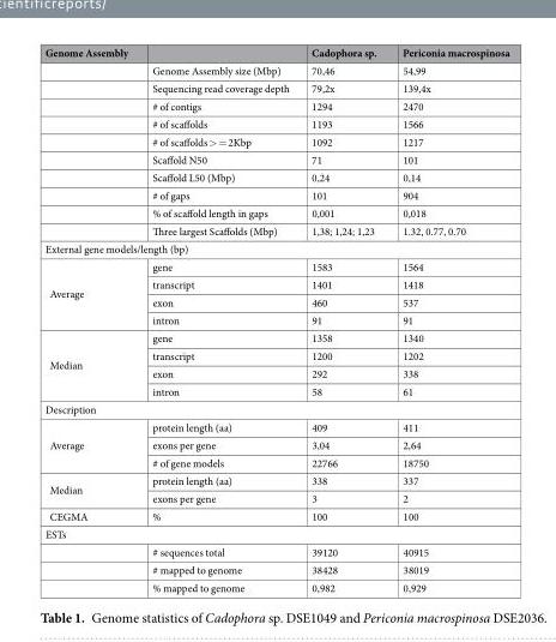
<table><thead><tr><td>Genome Assembly</td><td></td><td>Cadophora sp.</td><td>Periconia macrospinosa</td></tr></thead><tbody><tr><td></td><td>Genome Assembly size (Mbp)</td><td>70,46</td><td>54,99</td></tr><tr><td></td><td>Sequencing read coverage depth</td><td>79,2x</td><td>139,4x</td></tr><tr><td></td><td># of contigs</td><td>1294</td><td>2470</td></tr><tr><td></td><td># of scaffolds</td><td>1193</td><td>1566</td></tr><tr><td></td><td># of scaffolds &gt; = 2Kbp</td><td>1092</td><td>1217</td></tr><tr><td></td><td>Scaffold N50</td><td>71</td><td>101</td></tr><tr><td></td><td>Scaffold L50 (Mbp)</td><td>0,24</td><td>0,14</td></tr><tr><td></td><td># of gaps</td><td>101</td><td>904</td></tr><tr><td></td><td>% of scaffold length in gaps</td><td>0,001</td><td>0,018</td></tr><tr><td></td><td>Three largest Scaffolds (Mbp)</td><td>1,38; 1,24; 1,23</td><td>1.32, 0.77, 0.70</td></tr><tr><td colspan="4">External gene models/length (bp)</td></tr><tr><td rowspan="4">Average</td><td>gene</td><td>1583</td><td>1564</td></tr><tr><td>transcript</td><td>1401</td><td>1418</td></tr><tr><td>exon</td><td>460</td><td>537</td></tr><tr><td>intron</td><td>91</td><td>91</td></tr><tr><td rowspan="4">Median</td><td>gene</td><td>1358</td><td>1340</td></tr><tr><td>transcript</td><td>1200</td><td>1202</td></tr><tr><td>exon</td><td>292</td><td>338</td></tr><tr><td>intron</td><td>58</td><td>61</td></tr><tr><td colspan="4">Description</td></tr><tr><td rowspan="3">Average</td><td>protein length (aa)</td><td>409</td><td>411</td></tr><tr><td>exons per gene</td><td>3,04</td><td>2,64</td></tr><tr><td># of gene models</td><td>22766</td><td>18750</td></tr><tr><td rowspan="2">Median</td><td>protein length (aa)</td><td>338</td><td>337</td></tr><tr><td>exons per gene</td><td>3</td><td>2</td></tr><tr><td>CEGMA</td><td>%</td><td>100</td><td>100</td></tr><tr><td colspan="4">ESTs</td></tr><tr><td></td><td># sequences total</td><td>39120</td><td>40915</td></tr><tr><td></td><td># mapped to genome</td><td>38428</td><td>38019</td></tr><tr><td></td><td>% mapped to genome</td><td>0,982</td><td>0,929</td></tr></tbody></table>